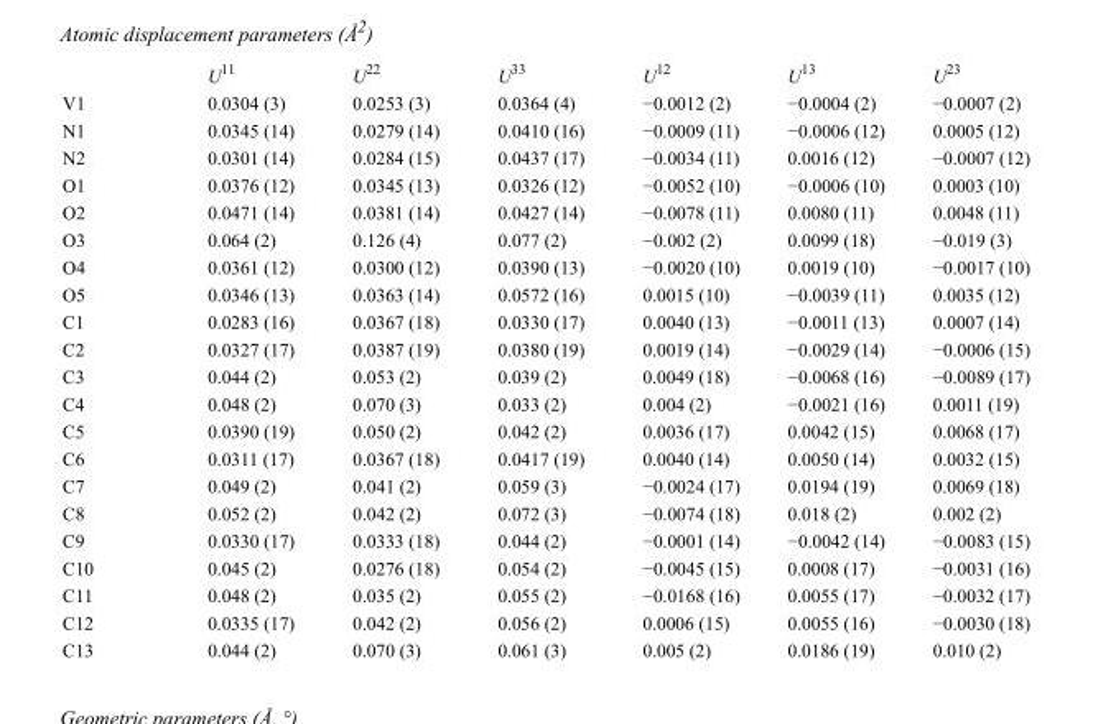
<table><thead><tr><td></td><td>U<sup>11</sup></td><td>U<sup>22</sup></td><td>U<sup>33</sup></td><td>U<sup>12</sup></td><td>U<sup>13</sup></td><td>U<sup>23</sup></td></tr></thead><tbody><tr><td>V1</td><td>0.0304 (3)</td><td>0.0253 (3)</td><td>0.0364 (4)</td><td>−0.0012 (2)</td><td>−0.0004 (2)</td><td>−0.0007 (2)</td></tr><tr><td>N1</td><td>0.0345 (14)</td><td>0.0279 (14)</td><td>0.0410 (16)</td><td>−0.0009 (11)</td><td>−0.0006 (12)</td><td>0.0005 (12)</td></tr><tr><td>N2</td><td>0.0301 (14)</td><td>0.0284 (15)</td><td>0.0437 (17)</td><td>−0.0034 (11)</td><td>0.0016 (12)</td><td>−0.0007 (12)</td></tr><tr><td>O1</td><td>0.0376 (12)</td><td>0.0345 (13)</td><td>0.0326 (12)</td><td>−0.0052 (10)</td><td>−0.0006 (10)</td><td>0.0003 (10)</td></tr><tr><td>O2</td><td>0.0471 (14)</td><td>0.0381 (14)</td><td>0.0427 (14)</td><td>−0.0078 (11)</td><td>0.0080 (11)</td><td>0.0048 (11)</td></tr><tr><td>O3</td><td>0.064 (2)</td><td>0.126 (4)</td><td>0.077 (2)</td><td>−0.002 (2)</td><td>0.0099 (18)</td><td>−0.019 (3)</td></tr><tr><td>O4</td><td>0.0361 (12)</td><td>0.0300 (12)</td><td>0.0390 (13)</td><td>−0.0020 (10)</td><td>0.0019 (10)</td><td>−0.0017 (10)</td></tr><tr><td>O5</td><td>0.0346 (13)</td><td>0.0363 (14)</td><td>0.0572 (16)</td><td>0.0015 (10)</td><td>−0.0039 (11)</td><td>0.0035 (12)</td></tr><tr><td>C1</td><td>0.0283 (16)</td><td>0.0367 (18)</td><td>0.0330 (17)</td><td>0.0040 (13)</td><td>−0.0011 (13)</td><td>0.0007 (14)</td></tr><tr><td>C2</td><td>0.0327 (17)</td><td>0.0387 (19)</td><td>0.0380 (19)</td><td>0.0019 (14)</td><td>−0.0029 (14)</td><td>−0.0006 (15)</td></tr><tr><td>C3</td><td>0.044 (2)</td><td>0.053 (2)</td><td>0.039 (2)</td><td>0.0049 (18)</td><td>−0.0068 (16)</td><td>−0.0089 (17)</td></tr><tr><td>C4</td><td>0.048 (2)</td><td>0.070 (3)</td><td>0.033 (2)</td><td>0.004 (2)</td><td>−0.0021 (16)</td><td>0.0011 (19)</td></tr><tr><td>C5</td><td>0.0390 (19)</td><td>0.050 (2)</td><td>0.042 (2)</td><td>0.0036 (17)</td><td>0.0042 (15)</td><td>0.0068 (17)</td></tr><tr><td>C6</td><td>0.0311 (17)</td><td>0.0367 (18)</td><td>0.0417 (19)</td><td>0.0040 (14)</td><td>0.0050 (14)</td><td>0.0032 (15)</td></tr><tr><td>C7</td><td>0.049 (2)</td><td>0.041 (2)</td><td>0.059 (3)</td><td>−0.0024 (17)</td><td>0.0194 (19)</td><td>0.0069 (18)</td></tr><tr><td>C8</td><td>0.052 (2)</td><td>0.042 (2)</td><td>0.072 (3)</td><td>−0.0074 (18)</td><td>0.018 (2)</td><td>0.002 (2)</td></tr><tr><td>C9</td><td>0.0330 (17)</td><td>0.0333 (18)</td><td>0.044 (2)</td><td>−0.0001 (14)</td><td>−0.0042 (14)</td><td>−0.0083 (15)</td></tr><tr><td>C10</td><td>0.045 (2)</td><td>0.0276 (18)</td><td>0.054 (2)</td><td>−0.0045 (15)</td><td>0.0008 (17)</td><td>−0.0031 (16)</td></tr><tr><td>C11</td><td>0.048 (2)</td><td>0.035 (2)</td><td>0.055 (2)</td><td>−0.0168 (16)</td><td>0.0055 (17)</td><td>−0.0032 (17)</td></tr><tr><td>C12</td><td>0.0335 (17)</td><td>0.042 (2)</td><td>0.056 (2)</td><td>0.0006 (15)</td><td>0.0055 (16)</td><td>−0.0030 (18)</td></tr><tr><td>C13</td><td>0.044 (2)</td><td>0.070 (3)</td><td>0.061 (3)</td><td>0.005 (2)</td><td>0.0186 (19)</td><td>0.010 (2)</td></tr></tbody></table>